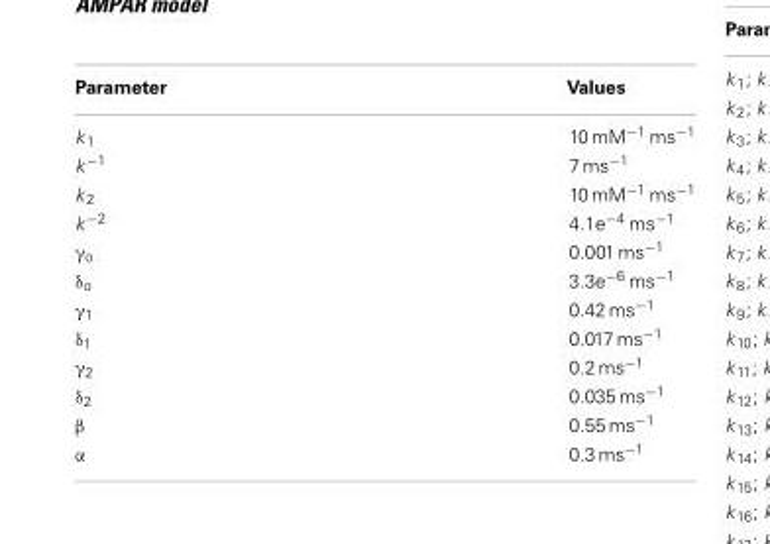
<table><thead><tr><td>Parameter</td><td>Values</td></tr></thead><tbody><tr><td>k<sub>1</sub></td><td>10 mM<sup>−1</sup> ms<sup>−1</sup></td></tr><tr><td>k<sup>−1</sup></td><td>7 ms<sup>−1</sup></td></tr><tr><td>k<sub>2</sub></td><td>10 mM<sup>−1</sup> ms<sup>−1</sup></td></tr><tr><td>k<sup>−2</sup></td><td>4.1e<sup>−4</sup> ms<sup>−1</sup></td></tr><tr><td>γ<sub>o</sub></td><td>0.001 ms<sup>−1</sup></td></tr><tr><td>δ<sub>o</sub></td><td>3.3e<sup>−6</sup> ms<sup>−1</sup></td></tr><tr><td>γ<sub>1</sub></td><td>0.42 ms<sup>−1</sup></td></tr><tr><td>δ<sub>1</sub></td><td>0.017 ms<sup>−1</sup></td></tr><tr><td>γ<sub>2</sub></td><td>0.2 ms<sup>−1</sup></td></tr><tr><td>δ<sub>2</sub></td><td>0.035 ms<sup>−1</sup></td></tr><tr><td>β</td><td>0.55 ms<sup>−1</sup></td></tr><tr><td>α</td><td>0.3 ms<sup>−1</sup></td></tr></tbody></table>